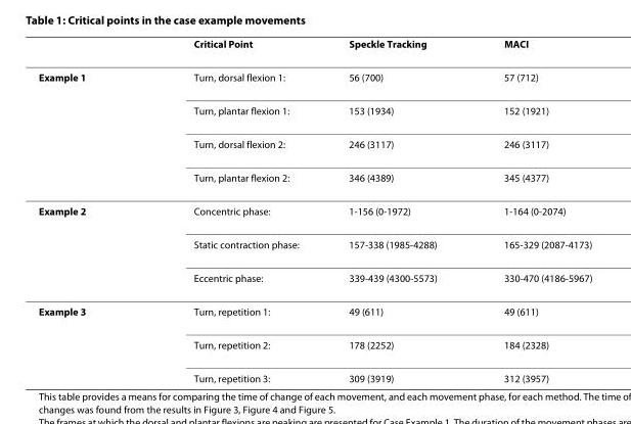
<table><thead><tr><td></td><td>Critical Point</td><td>Speckle Tracking</td><td>MACI</td></tr></thead><tbody><tr><td rowspan="4">Example 1</td><td>Turn, dorsal flexion 1:</td><td>56 (700)</td><td>57 (712)</td></tr><tr><td>Turn, plantar flexion 1:</td><td>153 (1934)</td><td>152 (1921)</td></tr><tr><td>Turn, dorsal flexion 2:</td><td>246 (3117)</td><td>246 (3117)</td></tr><tr><td>Turn, plantar flexion 2:</td><td>346 (4389)</td><td>345 (4377)</td></tr><tr><td rowspan="3">Example 2</td><td>Concentric phase:</td><td>1-156 (0-1972)</td><td>1-164 (0-2074)</td></tr><tr><td>Static contraction phase:</td><td>157-338 (1985-4288)</td><td>165-329 (2087-4173)</td></tr><tr><td>Eccentric phase:</td><td>339-439 (4300-5573)</td><td>330-470 (4186-5967)</td></tr><tr><td rowspan="3">Example 3</td><td>Turn, repetition 1:</td><td>49 (611)</td><td>49 (611)</td></tr><tr><td>Turn, repetition 2:</td><td>178 (2252)</td><td>184 (2328)</td></tr><tr><td>Turn, repetition 3:</td><td>309 (3919)</td><td>312 (3957)</td></tr></tbody></table>